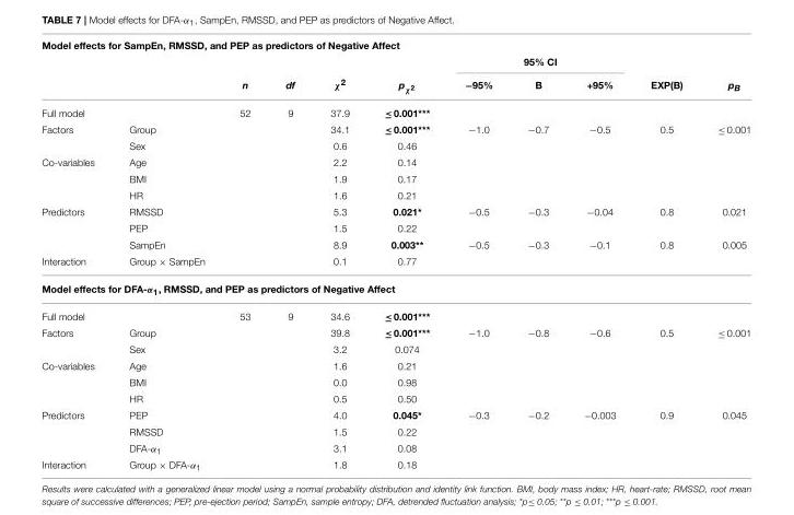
<table><thead><tr><td colspan="11">Model effects for SampEn, RMSSD, and PEP as predictors of Negative Affect</td></tr><tr><td rowspan="2"></td><td rowspan="2"></td><td rowspan="2">n</td><td rowspan="2">df</td><td rowspan="2">χ<sup>2</sup></td><td rowspan="2">p<sub>χ</sub><sup><sub>2</sub></sup></td><td colspan="3">95% CI</td><td rowspan="2">EXP(B)</td><td rowspan="2">p<sub>B</sub></td></tr><tr><td>−95%</td><td>B</td><td>+95%</td></tr></thead><tbody><tr><td>Full model</td><td></td><td>52</td><td>9</td><td>37.9</td><td>≤ 0.001***</td><td></td><td></td><td></td><td></td><td></td></tr><tr><td rowspan="2">Factors</td><td>Group</td><td></td><td></td><td>34.1</td><td>≤ 0.001***</td><td>−1.0</td><td>−0.7</td><td>−0.5</td><td>0.5</td><td>≤ 0.001</td></tr><tr><td>Sex</td><td></td><td></td><td>0.6</td><td>0.46</td><td></td><td></td><td></td><td></td><td></td></tr><tr><td rowspan="3">Co-variables</td><td>Age</td><td></td><td></td><td>2.2</td><td>0.14</td><td></td><td></td><td></td><td></td><td></td></tr><tr><td>BMI</td><td></td><td></td><td>1.9</td><td>0.17</td><td></td><td></td><td></td><td></td><td></td></tr><tr><td>HR</td><td></td><td></td><td>1.6</td><td>0.21</td><td></td><td></td><td></td><td></td><td></td></tr><tr><td rowspan="3">Predictors</td><td>RMSSD</td><td></td><td></td><td>5.3</td><td>0.021*</td><td>−0.5</td><td>−0.3</td><td>−0.04</td><td>0.8</td><td>0.021</td></tr><tr><td>PEP</td><td></td><td></td><td>1.5</td><td>0.22</td><td></td><td></td><td></td><td></td><td></td></tr><tr><td>SampEn</td><td></td><td></td><td>8.9</td><td>0.003**</td><td>−0.5</td><td>−0.3</td><td>−0.1</td><td>0.8</td><td>0.005</td></tr><tr><td>Interaction</td><td>Group × SampEn</td><td></td><td></td><td>0.1</td><td>0.77</td><td></td><td></td><td></td><td></td><td></td></tr><tr><td colspan="11">Model effects for DFA-α<sub>1</sub>, RMSSD, and PEP as predictors of Negative Affect</td></tr><tr><td>Full model</td><td></td><td>53</td><td>9</td><td>34.6</td><td>≤ 0.001***</td><td></td><td></td><td></td><td></td><td></td></tr><tr><td rowspan="2">Factors</td><td>Group</td><td></td><td></td><td>39.8</td><td>≤ 0.001***</td><td>−1.0</td><td>−0.8</td><td>−0.6</td><td>0.5</td><td>≤ 0.001</td></tr><tr><td>Sex</td><td></td><td></td><td>3.2</td><td>0.074</td><td></td><td></td><td></td><td></td><td></td></tr><tr><td rowspan="3">Co-variables</td><td>Age</td><td></td><td></td><td>1.6</td><td>0.21</td><td></td><td></td><td></td><td></td><td></td></tr><tr><td>BMI</td><td></td><td></td><td>0.0</td><td>0.98</td><td></td><td></td><td></td><td></td><td></td></tr><tr><td>HR</td><td></td><td></td><td>0.5</td><td>0.50</td><td></td><td></td><td></td><td></td><td></td></tr><tr><td rowspan="3">Predictors</td><td>PEP</td><td></td><td></td><td>4.0</td><td>0.045*</td><td>−0.3</td><td>−0.2</td><td>−0.003</td><td>0.9</td><td>0.045</td></tr><tr><td>RMSSD</td><td></td><td></td><td>1.5</td><td>0.22</td><td></td><td></td><td></td><td></td><td></td></tr><tr><td>DFA-α<sub>1</sub></td><td></td><td></td><td>3.1</td><td>0.08</td><td></td><td></td><td></td><td></td><td></td></tr><tr><td>Interaction</td><td>Group × DFA-α<sub>1</sub></td><td></td><td></td><td>1.8</td><td>0.18</td><td></td><td></td><td></td><td></td><td></td></tr></tbody></table>